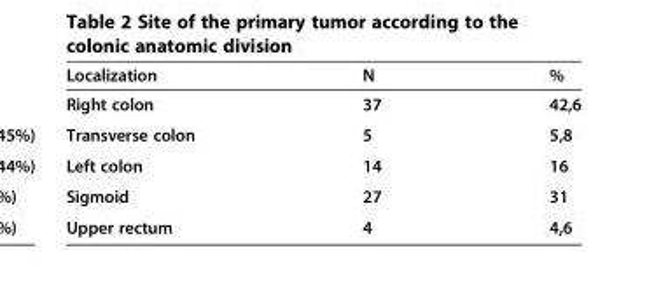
<table><thead><tr><td>Localization</td><td>N</td><td>%</td></tr></thead><tbody><tr><td>Right colon</td><td>37</td><td>42,6</td></tr><tr><td>Transverse colon</td><td>5</td><td>5,8</td></tr><tr><td>Left colon</td><td>14</td><td>16</td></tr><tr><td>Sigmoid</td><td>27</td><td>31</td></tr><tr><td>Upper rectum</td><td>4</td><td>4,6</td></tr></tbody></table>